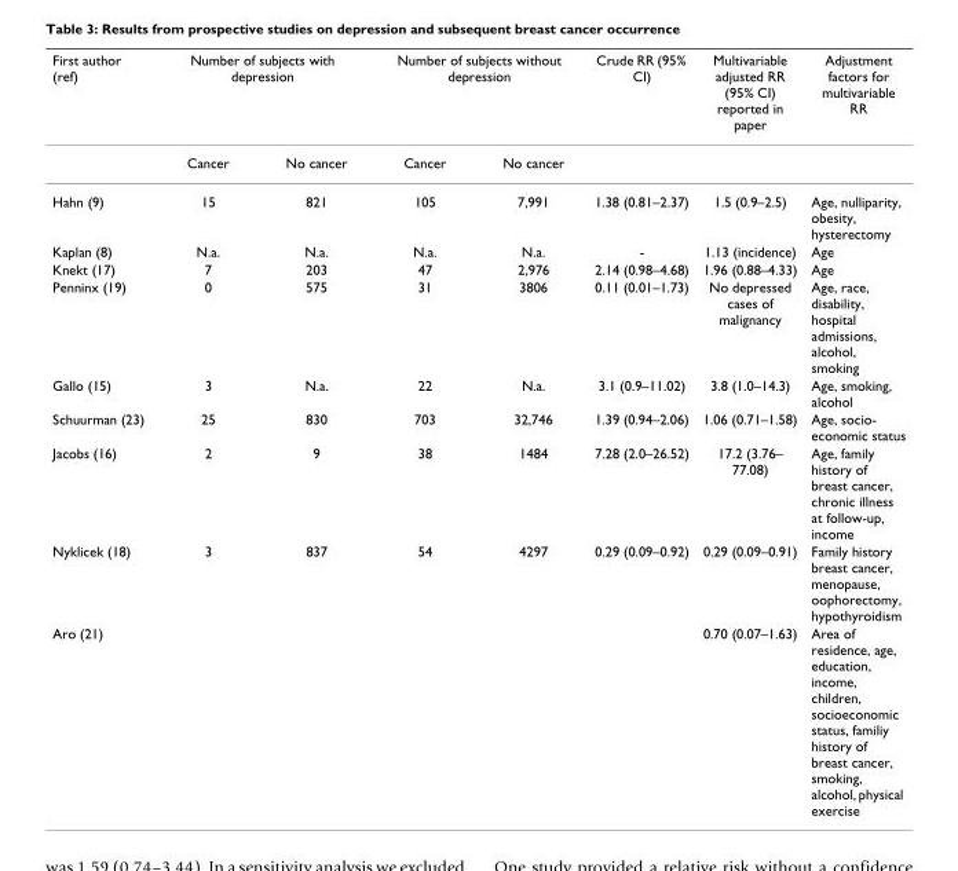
<table><thead><tr><td rowspan="2">First author (ref)</td><td colspan="2">Number of subjects with depression</td><td colspan="2">Number of subjects without depression</td><td rowspan="2">Crude RR (95% CI)</td><td rowspan="2">Multivariable adjusted RR (95% CI) reported in paper</td><td rowspan="2">Adjustment factors for multivariable RR</td></tr><tr><td>Cancer</td><td>No cancer</td><td>Cancer</td><td>No cancer</td></tr></thead><tbody><tr><td>Hahn (9)</td><td>15</td><td>821</td><td>105</td><td>7,991</td><td>1.38 (0.81–2.37)</td><td>1.5 (0.9–2.5)</td><td>Age, nulliparity, obesity, hysterectomy</td></tr><tr><td>Kaplan (8)</td><td>N.a.</td><td>N.a.</td><td>N.a.</td><td>N.a.</td><td>-</td><td>1.13 (incidence)</td><td>Age</td></tr><tr><td>Knekt (17)</td><td>7</td><td>203</td><td>47</td><td>2,976</td><td>2.14 (0.98–4.68)</td><td>1.96 (0.88–4.33)</td><td>Age</td></tr><tr><td>Penninx (19)</td><td>0</td><td>575</td><td>31</td><td>3806</td><td>0.11 (0.01–1.73)</td><td>No depressed cases of malignancy</td><td>Age, race, disability, hospital admissions, alcohol, smoking</td></tr><tr><td>Gallo (15)</td><td>3</td><td>N.a.</td><td>22</td><td>N.a.</td><td>3.1 (0.9–11.02)</td><td>3.8 (1.0–14.3)</td><td>Age, smoking, alcohol</td></tr><tr><td>Schuurman (23)</td><td>25</td><td>830</td><td>703</td><td>32,746</td><td>1.39 (0.94–2.06)</td><td>1.06 (0.71–1.58)</td><td>Age, socio- economic status</td></tr><tr><td>Jacobs (16)</td><td>2</td><td>9</td><td>38</td><td>1484</td><td>7.28 (2.0–26.52)</td><td>17.2 (3.76– 77.08)</td><td>Age, family history of breast cancer, chronic illness at follow-up, income</td></tr><tr><td>Nyklicek (18)</td><td>3</td><td>837</td><td>54</td><td>4297</td><td>0.29 (0.09–0.92)</td><td>0.29 (0.09–0.91)</td><td>Family history breast cancer, menopause, oophorectomy, hypothyroidism</td></tr><tr><td>Aro (21)</td><td></td><td></td><td></td><td></td><td></td><td>0.70 (0.07–1.63)</td><td>Area of residence, age, education, income, children, socioeconomic status, familiy history of breast cancer, smoking, alcohol, physical exercise</td></tr></tbody></table>